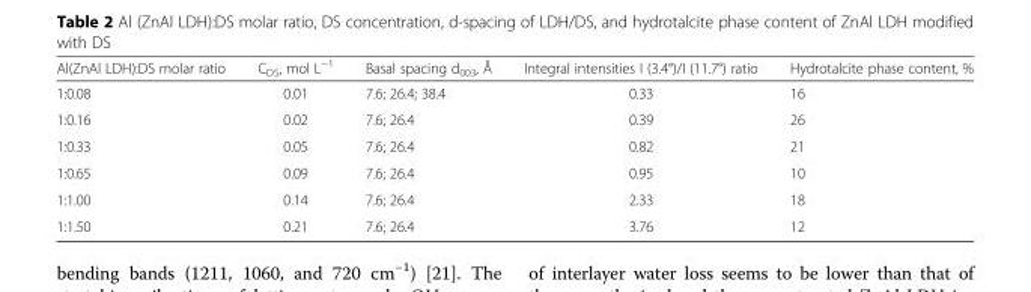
<table><thead><tr><td>Al(ZnAl LDH):DS molar ratio</td><td>C<sub>DS</sub>, mol L<sup>−1</sup></td><td>Basal spacing d<sub>003</sub>, Å</td><td>Integral intensities I (3.4°)/I (11.7°) ratio</td><td>Hydrotalcite phase content, %</td></tr></thead><tbody><tr><td>1:0.08</td><td>0.01</td><td>7.6; 26.4; 38.4</td><td>0.33</td><td>16</td></tr><tr><td>1:0.16</td><td>0.02</td><td>7.6; 26.4</td><td>0.39</td><td>26</td></tr><tr><td>1:0.33</td><td>0.05</td><td>7.6; 26.4</td><td>0.82</td><td>21</td></tr><tr><td>1:0.65</td><td>0.09</td><td>7.6; 26.4</td><td>0.95</td><td>10</td></tr><tr><td>1:1.00</td><td>0.14</td><td>7.6; 26.4</td><td>2.33</td><td>18</td></tr><tr><td>1:1.50</td><td>0.21</td><td>7.6; 26.4</td><td>3.76</td><td>12</td></tr></tbody></table>